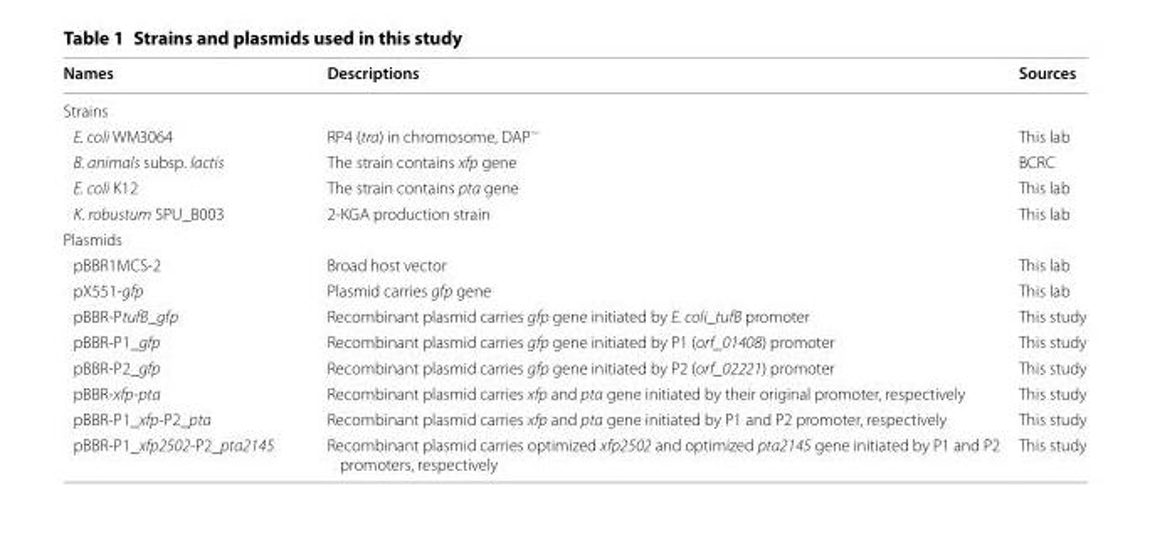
<table><thead><tr><td>Names</td><td>Descriptions</td><td>Sources</td></tr></thead><tbody><tr><td colspan="3">Strains</td></tr><tr><td>E. coli WM3064</td><td>RP4 (tra) in chromosome, DAP<sup>−</sup></td><td>This lab</td></tr><tr><td>B. animals subsp. lactis</td><td>The strain contains xfp gene</td><td>BCRC</td></tr><tr><td>E. coli K12</td><td>The strain contains pta gene</td><td>This lab</td></tr><tr><td>K. robustum SPU_B003</td><td>2‑KGA production strain</td><td>This lab</td></tr><tr><td colspan="3">Plasmids</td></tr><tr><td>pBBR1MCS‑2</td><td>Broad host vector</td><td>This lab</td></tr><tr><td>pX551‑gfp</td><td>Plasmid carries gfp gene</td><td>This lab</td></tr><tr><td>pBBR‑PtufB_gfp</td><td>Recombinant plasmid carries gfp gene initiated by E. coli_tufB promoter</td><td>This study</td></tr><tr><td>pBBR‑P1_gfp</td><td>Recombinant plasmid carries gfp gene initiated by P1 (orf_01408) promoter</td><td>This study</td></tr><tr><td>pBBR‑P2_gfp</td><td>Recombinant plasmid carries gfp gene initiated by P2 (orf_02221) promoter</td><td>This study</td></tr><tr><td>pBBR‑xfp‑pta</td><td>Recombinant plasmid carries xfp and pta gene initiated by their original promoter, respectively</td><td>This study</td></tr><tr><td>pBBR‑P1_xfp‑P2_pta</td><td>Recombinant plasmid carries xfp and pta gene initiated by P1 and P2 promoter, respectively</td><td>This study</td></tr><tr><td>pBBR‑P1_xfp2502‑P2_pta2145</td><td>Recombinant plasmid carries optimized xfp2502 and optimized pta2145 gene initiated by P1 and P2 promoters, respectively</td><td>This study</td></tr></tbody></table>